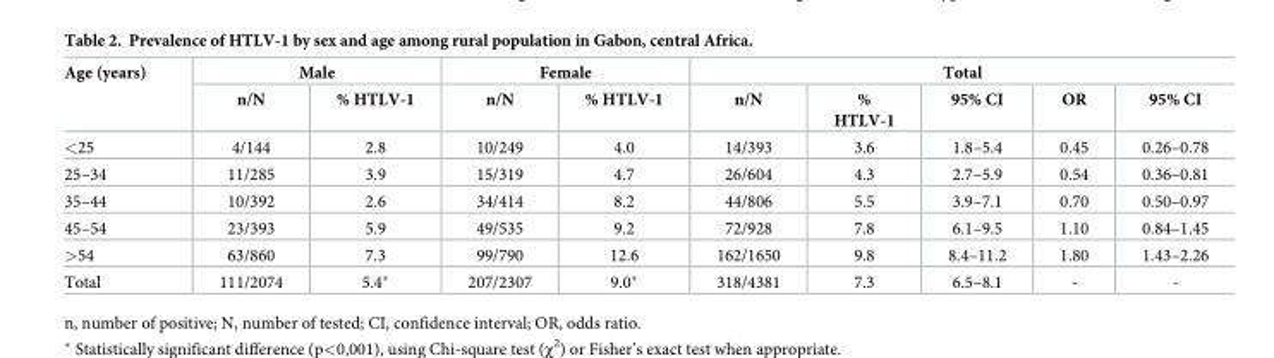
<table><thead><tr><td rowspan="2">Age (years)</td><td colspan="2">Male</td><td colspan="2">Female</td><td colspan="5">Total</td></tr><tr><td>n/N</td><td>% HTLV-1</td><td>n/N</td><td>% HTLV-1</td><td>n/N</td><td>% HTLV-1</td><td>95% CI</td><td>OR</td><td>95% CI</td></tr></thead><tbody><tr><td>&lt;25</td><td>4/144</td><td>2.8</td><td>10/249</td><td>4.0</td><td>14/393</td><td>3.6</td><td>1.8–5.4</td><td>0.45</td><td>0.26–0.78</td></tr><tr><td>25–34</td><td>11/285</td><td>3.9</td><td>15/319</td><td>4.7</td><td>26/604</td><td>4.3</td><td>2.7–5.9</td><td>0.54</td><td>0.36–0.81</td></tr><tr><td>35–44</td><td>10/392</td><td>2.6</td><td>34/414</td><td>8.2</td><td>44/806</td><td>5.5</td><td>3.9–7.1</td><td>0.70</td><td>0.50–0.97</td></tr><tr><td>45–54</td><td>23/393</td><td>5.9</td><td>49/535</td><td>9.2</td><td>72/928</td><td>7.8</td><td>6.1–9.5</td><td>1.10</td><td>0.84–1.45</td></tr><tr><td>&gt;54</td><td>63/860</td><td>7.3</td><td>99/790</td><td>12.6</td><td>162/1650</td><td>9.8</td><td>8.4–11.2</td><td>1.80</td><td>1.43–2.26</td></tr><tr><td>Total</td><td>111/2074</td><td>5.4*</td><td>207/2307</td><td>9.0*</td><td>318/4381</td><td>7.3</td><td>6.5–8.1</td><td>-</td><td>-</td></tr></tbody></table>